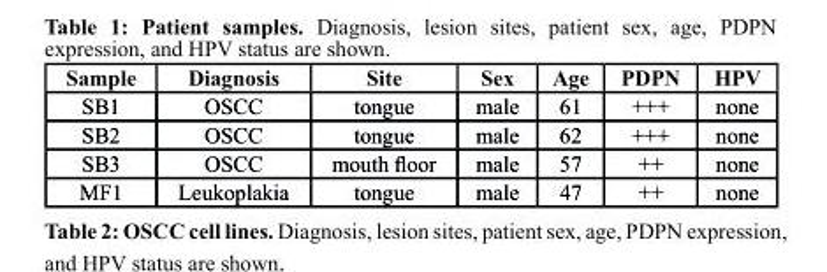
<table><thead><tr><td>sample</td><td>diagnosis</td><td>site</td><td>sex</td><td>Age</td><td>PdPn</td><td>HPV</td></tr></thead><tbody><tr><td>SB1</td><td>OSCC</td><td>tongue</td><td>male</td><td>61</td><td>+++</td><td>none</td></tr><tr><td>SB2</td><td>OSCC</td><td>tongue</td><td>male</td><td>62</td><td>+++</td><td>none</td></tr><tr><td>SB3</td><td>OSCC</td><td>mouth floor</td><td>male</td><td>57</td><td>++</td><td>none</td></tr><tr><td>MF1</td><td>Leukoplakia</td><td>tongue</td><td>male</td><td>47</td><td>++</td><td>none</td></tr></tbody></table>